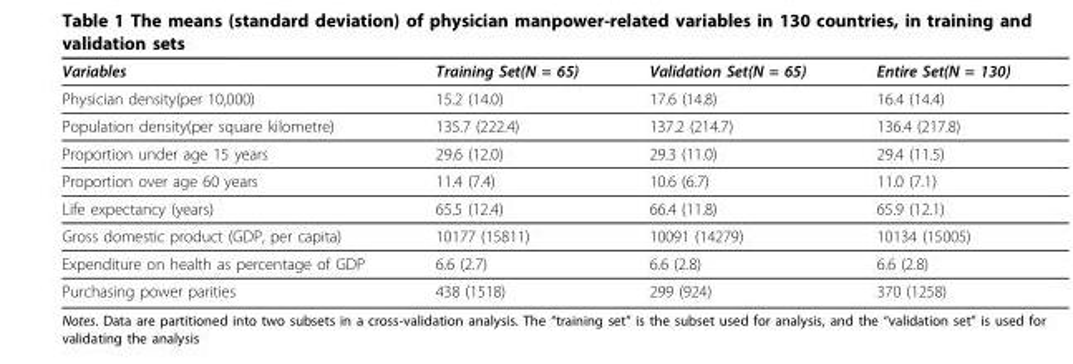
<table><thead><tr><td>Variables</td><td>Training Set(N = 65)</td><td>Validation Set(N = 65)</td><td>Entire Set(N = 130)</td></tr></thead><tbody><tr><td>Physician density(per 10,000)</td><td>15.2 (14.0)</td><td>17.6 (14.8)</td><td>16.4 (14.4)</td></tr><tr><td>Population density(per square kilometre)</td><td>135.7 (222.4)</td><td>137.2 (214.7)</td><td>136.4 (217.8)</td></tr><tr><td>Proportion under age 15 years</td><td>29.6 (12.0)</td><td>29.3 (11.0)</td><td>29.4 (11.5)</td></tr><tr><td>Proportion over age 60 years</td><td>11.4 (7.4)</td><td>10.6 (6.7)</td><td>11.0 (7.1)</td></tr><tr><td>Life expectancy (years)</td><td>65.5 (12.4)</td><td>66.4 (11.8)</td><td>65.9 (12.1)</td></tr><tr><td>Gross domestic product (GDP, per capita)</td><td>10177 (15811)</td><td>10091 (14279)</td><td>10134 (15005)</td></tr><tr><td>Expenditure on health as percentage of GDP</td><td>6.6 (2.7)</td><td>6.6 (2.8)</td><td>6.6 (2.8)</td></tr><tr><td>Purchasing power parities</td><td>438 (1518)</td><td>299 (924)</td><td>370 (1258)</td></tr></tbody></table>